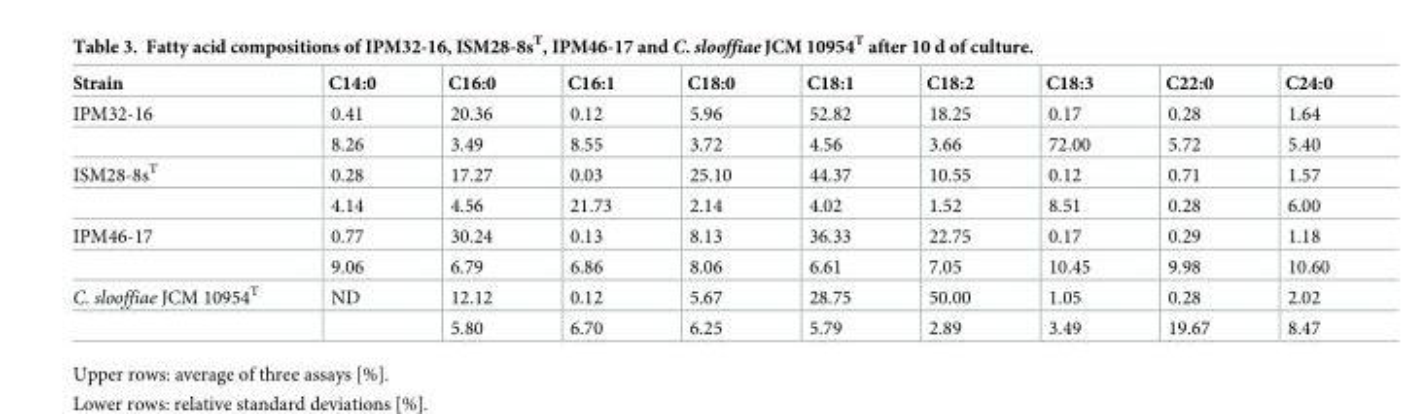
<table><thead><tr><td>Strain</td><td>C14:0</td><td>C16:0</td><td>C16:1</td><td>C18:0</td><td>C18:1</td><td>C18:2</td><td>C18:3</td><td>C22:0</td><td>C24:0</td></tr></thead><tbody><tr><td rowspan="2">IPM32-16</td><td>0.41</td><td>20.36</td><td>0.12</td><td>5.96</td><td>52.82</td><td>18.25</td><td>0.17</td><td>0.28</td><td>1.64</td></tr><tr><td>8.26</td><td>3.49</td><td>8.55</td><td>3.72</td><td>4.56</td><td>3.66</td><td>72.00</td><td>5.72</td><td>5.40</td></tr><tr><td rowspan="2">ISM28-8s<sup>T</sup></td><td>0.28</td><td>17.27</td><td>0.03</td><td>25.10</td><td>44.37</td><td>10.55</td><td>0.12</td><td>0.71</td><td>1.57</td></tr><tr><td>4.14</td><td>4.56</td><td>21.73</td><td>2.14</td><td>4.02</td><td>1.52</td><td>8.51</td><td>0.28</td><td>6.00</td></tr><tr><td rowspan="2">IPM46-17</td><td>0.77</td><td>30.24</td><td>0.13</td><td>8.13</td><td>36.33</td><td>22.75</td><td>0.17</td><td>0.29</td><td>1.18</td></tr><tr><td>9.06</td><td>6.79</td><td>6.86</td><td>8.06</td><td>6.61</td><td>7.05</td><td>10.45</td><td>9.98</td><td>10.60</td></tr><tr><td rowspan="2">C. slooffiae JCM 10954<sup>T</sup></td><td>ND</td><td>12.12</td><td>0.12</td><td>5.67</td><td>28.75</td><td>50.00</td><td>1.05</td><td>0.28</td><td>2.02</td></tr><tr><td></td><td>5.80</td><td>6.70</td><td>6.25</td><td>5.79</td><td>2.89</td><td>3.49</td><td>19.67</td><td>8.47</td></tr></tbody></table>